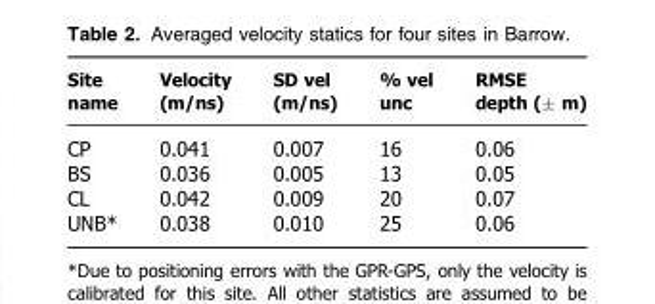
<table><thead><tr><td>Site name</td><td>Velocity (m/ns)</td><td>SD vel (m/ns)</td><td>% vel unc</td><td>RMSE depth (± m)</td></tr></thead><tbody><tr><td>CP</td><td>0.041</td><td>0.007</td><td>16</td><td>0.06</td></tr><tr><td>BS</td><td>0.036</td><td>0.005</td><td>13</td><td>0.05</td></tr><tr><td>CL</td><td>0.042</td><td>0.009</td><td>20</td><td>0.07</td></tr><tr><td>UNB*</td><td>0.038</td><td>0.010</td><td>25</td><td>0.06</td></tr></tbody></table>